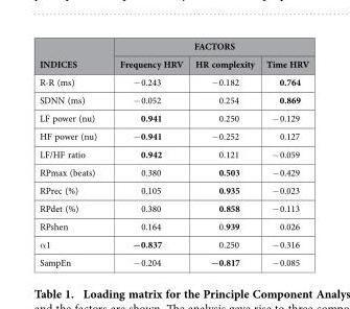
<table><thead><tr><td rowspan="2">INDICES</td><td colspan="3">FACTORS</td></tr><tr><td>Frequency HRV</td><td>HR complexity</td><td>Time HRV</td></tr></thead><tbody><tr><td>R-R (ms)</td><td>− 0.243</td><td>− 0.182</td><td>0.764</td></tr><tr><td>SDNN (ms)</td><td>− 0.052</td><td>0.254</td><td>0.869</td></tr><tr><td>LF power (nu)</td><td>0.941</td><td>0.250</td><td>− 0.129</td></tr><tr><td>HF power (nu)</td><td>− 0.941</td><td>− 0.252</td><td>0.127</td></tr><tr><td>LF/HF ratio</td><td>0.942</td><td>0.121</td><td>− 0.059</td></tr><tr><td>RPmax (beats)</td><td>0.380</td><td>0.503</td><td>− 0.429</td></tr><tr><td>RPrec (%)</td><td>0.105</td><td>0.935</td><td>− 0.023</td></tr><tr><td>RPdet (%)</td><td>0.380</td><td>0.858</td><td>− 0.113</td></tr><tr><td>RPshen</td><td>0.164</td><td>0.939</td><td>0.026</td></tr><tr><td>α 1</td><td>−0.837</td><td>0.250</td><td>− 0.316</td></tr><tr><td>SampEn</td><td>− 0.204</td><td>−0.817</td><td>− 0.085</td></tr></tbody></table>